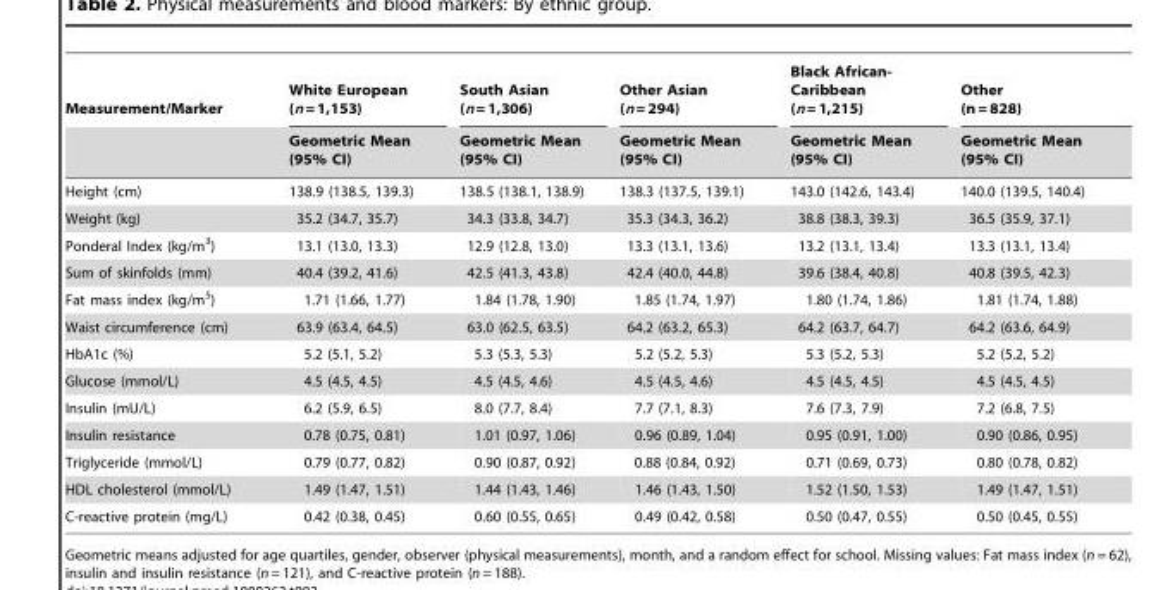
<table><thead><tr><td rowspan="2">Measurement/Marker</td><td rowspan="2">White European (n = 1,153) Geometric Mean (95% CI)</td><td rowspan="2">South Asian (n = 1,306) Geometric Mean (95% CI)</td><td rowspan="2">Other Asian (n = 294) Geometric Mean (95% CI)</td><td rowspan="2">Black African- Caribbean (n = 1,215) Geometric Mean (95% CI)</td><td rowspan="2">Other (n = 828) Geometric Mean (95% CI)</td></tr><tr></tr></thead><tbody><tr><td>Height (cm)</td><td>138.9 (138.5, 139.3)</td><td>138.5 (138.1, 138.9)</td><td>138.3 (137.5, 139.1)</td><td>143.0 (142.6, 143.4)</td><td>140.0 (139.5, 140.4)</td></tr><tr><td>Weight (kg)</td><td>35.2 (34.7, 35.7)</td><td>34.3 (33.8, 34.7)</td><td>35.3 (34.3, 36.2)</td><td>38.8 (38.3, 39.3)</td><td>36.5 (35.9, 37.1)</td></tr><tr><td>Ponderal Index (kg/m<sup>3</sup>)</td><td>13.1 (13.0, 13.3)</td><td>12.9 (12.8, 13.0)</td><td>13.3 (13.1, 13.6)</td><td>13.2 (13.1, 13.4)</td><td>13.3 (13.1, 13.4)</td></tr><tr><td>Sum of skinfolds (mm)</td><td>40.4 (39.2, 41.6)</td><td>42.5 (41.3, 43.8)</td><td>42.4 (40.0, 44.8)</td><td>39.6 (38.4, 40.8)</td><td>40.8 (39.5, 42.3)</td></tr><tr><td>Fat mass index (kg/m<sup>5</sup>)</td><td>1.71 (1.66, 1.77)</td><td>1.84 (1.78, 1.90)</td><td>1.85 (1.74, 1.97)</td><td>1.80 (1.74, 1.86)</td><td>1.81 (1.74, 1.88)</td></tr><tr><td>Waist circumference (cm)</td><td>63.9 (63.4, 64.5)</td><td>63.0 (62.5, 63.5)</td><td>64.2 (63.2, 65.3)</td><td>64.2 (63.7, 64.7)</td><td>64.2 (63.6, 64.9)</td></tr><tr><td>HbA1c (%)</td><td>5.2 (5.1, 5.2)</td><td>5.3 (5.3, 5.3)</td><td>5.2 (5.2, 5.3)</td><td>5.3 (5.2, 5.3)</td><td>5.2 (5.2, 5.2)</td></tr><tr><td>Glucose (mmol/L)</td><td>4.5 (4.5, 4.5)</td><td>4.5 (4.5, 4.6)</td><td>4.5 (4.5, 4.6)</td><td>4.5 (4.5, 4.5)</td><td>4.5 (4.5, 4.5)</td></tr><tr><td>Insulin (mU/L)</td><td>6.2 (5.9, 6.5)</td><td>8.0 (7.7, 8.4)</td><td>7.7 (7.1, 8.3)</td><td>7.6 (7.3, 7.9)</td><td>7.2 (6.8, 7.5)</td></tr><tr><td>Insulin resistance</td><td>0.78 (0.75, 0.81)</td><td>1.01 (0.97, 1.06)</td><td>0.96 (0.89, 1.04)</td><td>0.95 (0.91, 1.00)</td><td>0.90 (0.86, 0.95)</td></tr><tr><td>Triglyceride (mmol/L)</td><td>0.79 (0.77, 0.82)</td><td>0.90 (0.87, 0.92)</td><td>0.88 (0.84, 0.92)</td><td>0.71 (0.69, 0.73)</td><td>0.80 (0.78, 0.82)</td></tr><tr><td>HDL cholesterol (mmol/L)</td><td>1.49 (1.47, 1.51)</td><td>1.44 (1.43, 1.46)</td><td>1.46 (1.43, 1.50)</td><td>1.52 (1.50, 1.53)</td><td>1.49 (1.47, 1.51)</td></tr><tr><td>C-reactive protein (mg/L)</td><td>0.42 (0.38, 0.45)</td><td>0.60 (0.55, 0.65)</td><td>0.49 (0.42, 0.58)</td><td>0.50 (0.47, 0.55)</td><td>0.50 (0.45, 0.55)</td></tr></tbody></table>